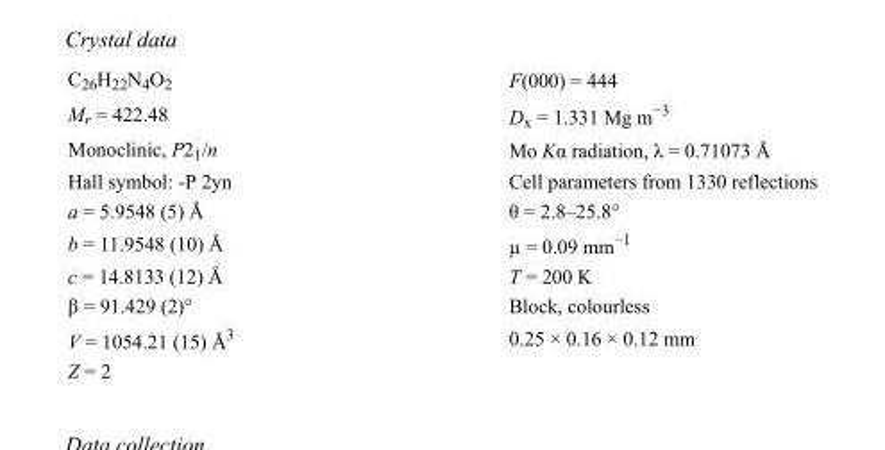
<table><tbody><tr><td>C<sub>26</sub>H<sub>22</sub>N<sub>4</sub>O<sub>2</sub></td><td>F(000) = 444</td></tr><tr><td>M<sub>r</sub> = 422.48</td><td>D<sub>x</sub> = 1.331 Mg m<sup>−3</sup></td></tr><tr><td>Monoclinic, P2<sub>1</sub>/n</td><td>Mo Kα radiation, λ = 0.71073 Å</td></tr><tr><td>Hall symbol: -P 2yn</td><td>Cell parameters from 1330 reflections</td></tr><tr><td>a = 5.9548 (5) Å</td><td>θ = 2.8–25.8°</td></tr><tr><td>b = 11.9548 (10) Å</td><td>µ = 0.09 mm<sup>−1</sup></td></tr><tr><td>c = 14.8133 (12) Å</td><td>T = 200 K</td></tr><tr><td>β = 91.429 (2)°</td><td>Block, colourless</td></tr><tr><td>V = 1054.21 (15) Å<sup>3</sup></td><td>0.25 × 0.16 × 0.12 mm</td></tr><tr><td>Z = 2</td><td></td></tr></tbody></table>